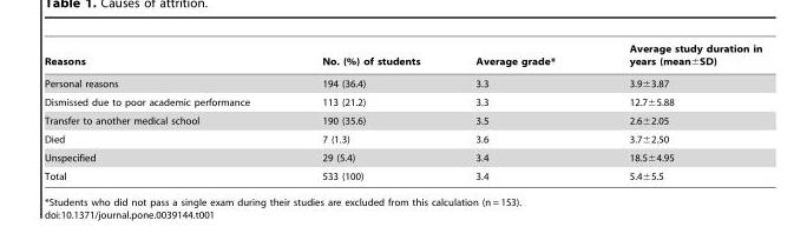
<table><thead><tr><td>Reasons</td><td>No. (%) of students</td><td>Average grade*</td><td>Average study duration in years (mean±SD)</td></tr></thead><tbody><tr><td>Personal reasons</td><td>194 (36.4)</td><td>3.3</td><td>3.9±3.87</td></tr><tr><td>Dismissed due to poor academic performance</td><td>113 (21.2)</td><td>3.3</td><td>12.7±5.88</td></tr><tr><td>Transfer to another medical school</td><td>190 (35.6)</td><td>3.5</td><td>2.6±2.05</td></tr><tr><td>Died</td><td>7 (1.3)</td><td>3.6</td><td>3.7±2.50</td></tr><tr><td>Unspecified</td><td>29 (5.4)</td><td>3.4</td><td>18.5±4.95</td></tr><tr><td>Total</td><td>533 (100)</td><td>3.4</td><td>5.4±5.5</td></tr></tbody></table>